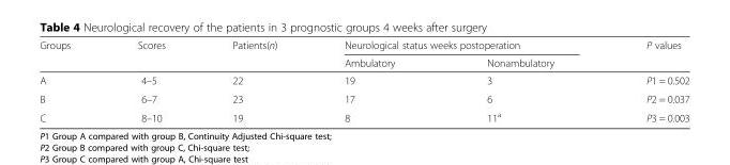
<table><thead><tr><td rowspan="2">Groups</td><td rowspan="2">Scores</td><td rowspan="2">Patients(n)</td><td colspan="2">Neurological status weeks postoperation</td><td rowspan="2">P values</td></tr><tr><td>Ambulatory</td><td>Nonambulatory</td></tr></thead><tbody><tr><td>A</td><td>4–5</td><td>22</td><td>19</td><td>3</td><td>P1 = 0.502</td></tr><tr><td>B</td><td>6–7</td><td>23</td><td>17</td><td>6</td><td>P2 = 0.037</td></tr><tr><td>C</td><td>8–10</td><td>19</td><td>8</td><td>11<sup>a</sup></td><td>P3 = 0.003</td></tr></tbody></table>